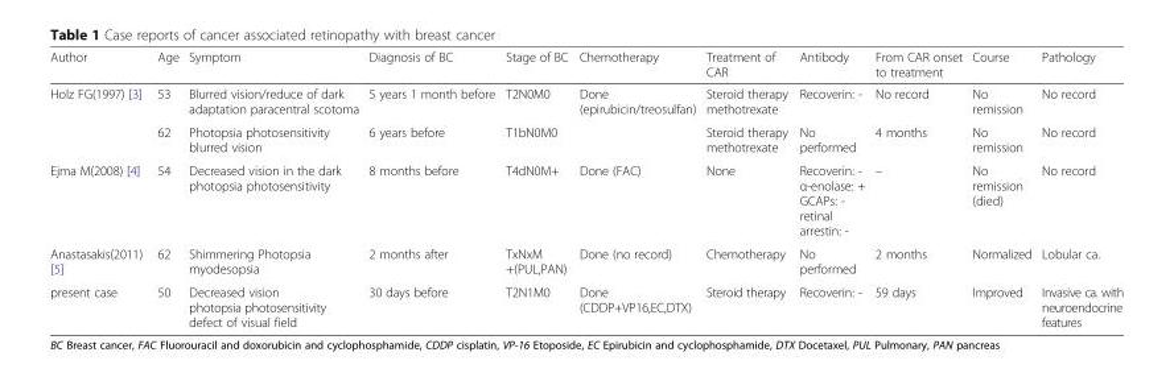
<table><thead><tr><td>Author</td><td>Age</td><td>Symptom</td><td>Diagnosis of BC</td><td>Stage of BC</td><td>Chemotherapy</td><td>Treatment of CAR</td><td>Antibody</td><td>From CAR onset to treatment</td><td>Course</td><td>Pathology</td></tr></thead><tbody><tr><td rowspan="2">Holz FG(1997) [3]</td><td>53</td><td>Blurred vision/reduce of dark adaptation paracentral scotoma</td><td>5 years 1 month before</td><td>T2N0M0</td><td>Done (epirubicin/treosulfan)</td><td>Steroid therapy methotrexate</td><td>Recoverin: -</td><td>No record</td><td>No remission</td><td>No record</td></tr><tr><td>62</td><td>Photopsia photosensitivity blurred vision</td><td>6 years before</td><td>T1bN0M0</td><td></td><td>Steroid therapy methotrexate</td><td>No performed</td><td>4 months</td><td>No remission</td><td>No record</td></tr><tr><td>Ejma M(2008) [4]</td><td>54</td><td>Decreased vision in the dark photopsia photosensitivity</td><td>8 months before</td><td>T4dN0M+</td><td>Done (FAC)</td><td>None</td><td>Recoverin: - α-enolase: + GCAPs: - retinal arrestin: -</td><td>–</td><td>No remission (died)</td><td>No record</td></tr><tr><td>Anastasakis(2011) [5]</td><td>62</td><td>Shimmering Photopsia myodesopsia</td><td>2 months after</td><td>TxNxM +(PUL,PAN)</td><td>Done (no record)</td><td>Chemotherapy</td><td>No performed</td><td>2 months</td><td>Normalized</td><td>Lobular ca.</td></tr><tr><td>present case</td><td>50</td><td>Decreased vision photopsia photosensitivity defect of visual field</td><td>30 days before</td><td>T2N1M0</td><td>Done (CDDP+VP16,EC,DTX)</td><td>Steroid therapy</td><td>Recoverin: -</td><td>59 days</td><td>Improved</td><td>Invasive ca. with neuroendocrine features</td></tr></tbody></table>